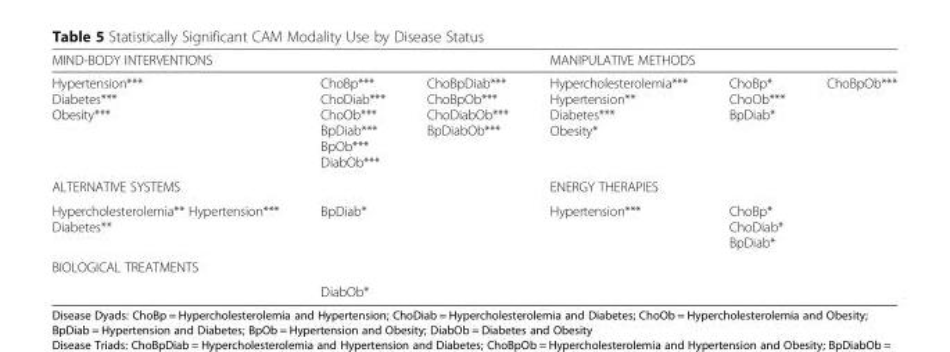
<table><thead><tr><td colspan="3">MIND-BODY INTERVENTIONS</td><td colspan="3">MANIPULATIVE METHODS</td></tr><tr><td>Hypertension*** Diabetes*** Obesity***</td><td>ChoBp*** ChoDiab*** ChoOb*** BpDiab*** BpOb*** DiabOb***</td><td>ChoBpDiab*** ChoBpOb*** ChoDiabOb*** BpDiabOb***</td><td>Hypercholesterolemia*** Hypertension** Diabetes*** Obesity*</td><td>ChoBp* ChoOb*** BpDiab*</td><td>ChoBpOb***</td></tr></thead><tbody><tr><td colspan="3">ALTERNATIVE SYSTEMS</td><td colspan="3">ENERGY THERAPIES</td></tr><tr><td>Hypercholesterolemia** Hypertension*** Diabetes**</td><td>BpDiab*</td><td></td><td>Hypertension***</td><td>ChoBp* ChoDiab* BpDiab*</td><td></td></tr><tr><td colspan="3">BIOLOGICAL TREATMENTS</td><td rowspan="2" colspan="3"></td></tr><tr><td></td><td>DiabOb*</td><td></td></tr></tbody></table>